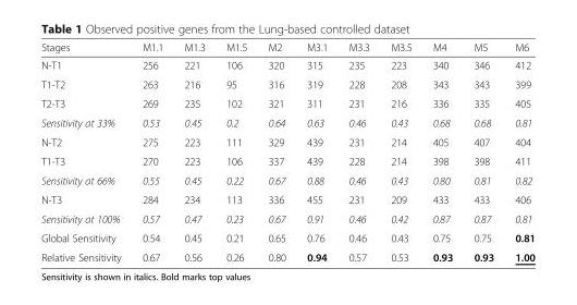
<table><thead><tr><td>Stages</td><td>M1.1</td><td>M1.3</td><td>M1.5</td><td>M2</td><td>M3.1</td><td>M3.3</td><td>M3.5</td><td>M4</td><td>M5</td><td>M6</td></tr></thead><tbody><tr><td>N-T1</td><td>256</td><td>221</td><td>106</td><td>320</td><td>315</td><td>235</td><td>223</td><td>340</td><td>346</td><td>412</td></tr><tr><td>T1-T2</td><td>263</td><td>216</td><td>95</td><td>316</td><td>319</td><td>228</td><td>208</td><td>343</td><td>343</td><td>399</td></tr><tr><td>T2-T3</td><td>269</td><td>235</td><td>102</td><td>321</td><td>311</td><td>231</td><td>216</td><td>336</td><td>335</td><td>405</td></tr><tr><td>Sensitivity at 33%</td><td>0.53</td><td>0.45</td><td>0.2</td><td>0.64</td><td>0.63</td><td>0.46</td><td>0.43</td><td>0.68</td><td>0.68</td><td>0.81</td></tr><tr><td>N-T2</td><td>275</td><td>223</td><td>111</td><td>329</td><td>439</td><td>231</td><td>214</td><td>405</td><td>407</td><td>404</td></tr><tr><td>T1-T3</td><td>270</td><td>223</td><td>106</td><td>337</td><td>439</td><td>228</td><td>214</td><td>398</td><td>398</td><td>411</td></tr><tr><td>Sensitivity at 66%</td><td>0.55</td><td>0.45</td><td>0.22</td><td>0.67</td><td>0.88</td><td>0.46</td><td>0.43</td><td>0.80</td><td>0.81</td><td>0.82</td></tr><tr><td>N-T3</td><td>284</td><td>234</td><td>113</td><td>336</td><td>455</td><td>231</td><td>209</td><td>433</td><td>433</td><td>406</td></tr><tr><td>Sensitivity at 100%</td><td>0.57</td><td>0.47</td><td>0.23</td><td>0.67</td><td>0.91</td><td>0.46</td><td>0.42</td><td>0.87</td><td>0.87</td><td>0.81</td></tr><tr><td>Global Sensitivity</td><td>0.54</td><td>0.45</td><td>0.21</td><td>0.65</td><td>0.76</td><td>0.46</td><td>0.43</td><td>0.75</td><td>0.75</td><td>0.81</td></tr><tr><td>Relative Sensitivity</td><td>0.67</td><td>0.56</td><td>0.26</td><td>0.80</td><td>0.94</td><td>0.57</td><td>0.53</td><td>0.93</td><td>0.93</td><td>1.00</td></tr></tbody></table>